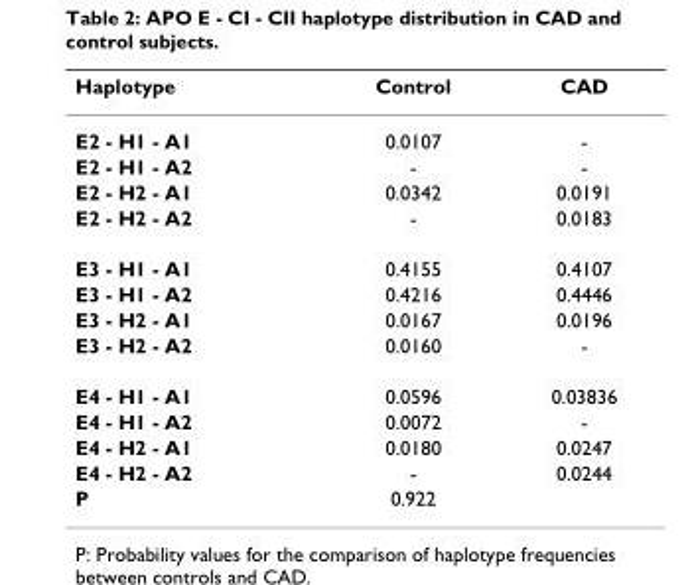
<table><thead><tr><td>Haplotype</td><td>Control</td><td>CAD</td></tr></thead><tbody><tr><td>E2 - H1 - A1</td><td>0.0107</td><td>-</td></tr><tr><td>E2 - H1 - A2</td><td>-</td><td>-</td></tr><tr><td>E2 - H2 - A1</td><td>0.0342</td><td>0.0191</td></tr><tr><td>E2 - H2 - A2</td><td>-</td><td>0.0183</td></tr><tr><td>E3 - H1 - A1</td><td>0.4155</td><td>0.4107</td></tr><tr><td>E3 - H1 - A2</td><td>0.4216</td><td>0.4446</td></tr><tr><td>E3 - H2 - A1</td><td>0.0167</td><td>0.0196</td></tr><tr><td>E3 - H2 - A2</td><td>0.0160</td><td>-</td></tr><tr><td>E4 - H1 - A1</td><td>0.0596</td><td>0.03836</td></tr><tr><td>E4 - H1 - A2</td><td>0.0072</td><td>-</td></tr><tr><td>E4 - H2 - A1</td><td>0.0180</td><td>0.0247</td></tr><tr><td>E4 - H2 - A2</td><td>-</td><td>0.0244</td></tr><tr><td>P</td><td>0.922</td><td></td></tr></tbody></table>